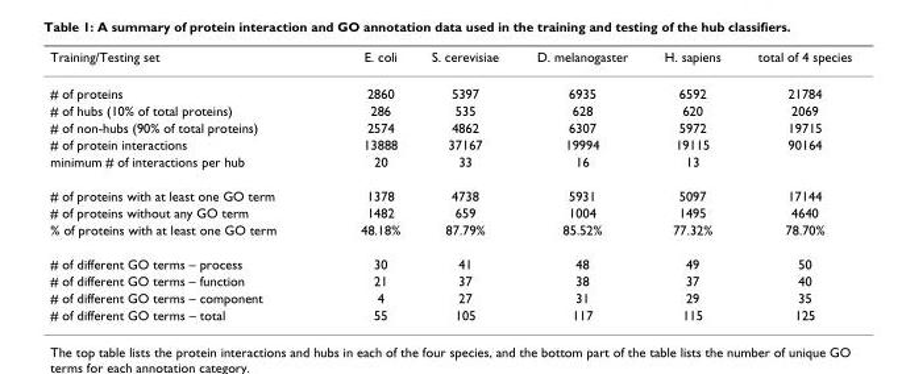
<table><thead><tr><td>Training/Testing set</td><td>E. coli</td><td>S. cerevisiae</td><td>D. melanogaster</td><td>H. sapiens</td><td>total of 4 species</td></tr></thead><tbody><tr><td># of proteins</td><td>2860</td><td>5397</td><td>6935</td><td>6592</td><td>21784</td></tr><tr><td># of hubs (10% of total proteins)</td><td>286</td><td>535</td><td>628</td><td>620</td><td>2069</td></tr><tr><td># of non-hubs (90% of total proteins)</td><td>2574</td><td>4862</td><td>6307</td><td>5972</td><td>19715</td></tr><tr><td># of protein interactions</td><td>13888</td><td>37167</td><td>19994</td><td>19115</td><td>90164</td></tr><tr><td>minimum # of interactions per hub</td><td>20</td><td>33</td><td>16</td><td>13</td><td></td></tr><tr><td># of proteins with at least one GO term</td><td>1378</td><td>4738</td><td>5931</td><td>5097</td><td>17144</td></tr><tr><td># of proteins without any GO term</td><td>1482</td><td>659</td><td>1004</td><td>1495</td><td>4640</td></tr><tr><td>% of proteins with at least one GO term</td><td>48.18%</td><td>87.79%</td><td>85.52%</td><td>77.32%</td><td>78.70%</td></tr><tr><td># of different GO terms – process</td><td>30</td><td>41</td><td>48</td><td>49</td><td>50</td></tr><tr><td># of different GO terms – function</td><td>21</td><td>37</td><td>38</td><td>37</td><td>40</td></tr><tr><td># of different GO terms – component</td><td>4</td><td>27</td><td>31</td><td>29</td><td>35</td></tr><tr><td># of different GO terms – total</td><td>55</td><td>105</td><td>117</td><td>115</td><td>125</td></tr></tbody></table>